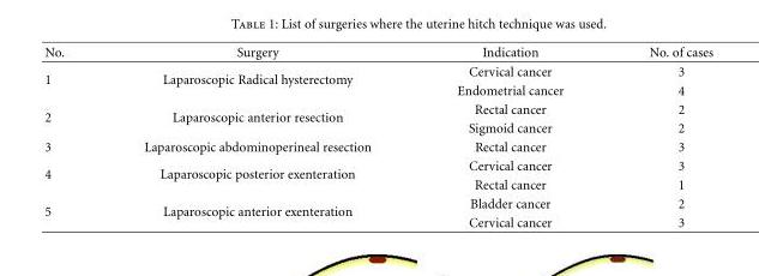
<table><thead><tr><td>No.</td><td>Surgery</td><td>Indication</td><td>No. of cases</td></tr></thead><tbody><tr><td rowspan="2">1</td><td rowspan="2">Laparoscopic Radical hysterectomy</td><td>Cervical cancer</td><td>3</td></tr><tr><td>Endometrial cancer</td><td>4</td></tr><tr><td rowspan="2">2</td><td rowspan="2">Laparoscopic anterior resection</td><td>Rectal cancer</td><td>2</td></tr><tr><td>Sigmoid cancer</td><td>2</td></tr><tr><td>3</td><td>Laparoscopic abdominoperineal resection</td><td>Rectal cancer</td><td>3</td></tr><tr><td rowspan="2">4</td><td rowspan="2">Laparoscopic posterior exenteration</td><td>Cervical cancer</td><td>3</td></tr><tr><td>Rectal cancer</td><td>1</td></tr><tr><td rowspan="2">5</td><td rowspan="2">Laparoscopic anterior exenteration</td><td>Bladder cancer</td><td>2</td></tr><tr><td>Cervical cancer</td><td>3</td></tr></tbody></table>